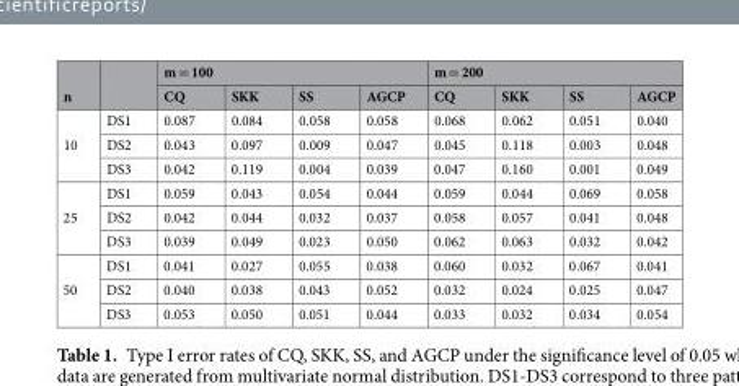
<table><thead><tr><td rowspan="2">n</td><td rowspan="2"></td><td colspan="4">m = 100</td><td colspan="4">m = 200</td></tr><tr><td>CQ</td><td>SKK</td><td>SS</td><td>AGCP</td><td>CQ</td><td>SKK</td><td>SS</td><td>AGCP</td></tr></thead><tbody><tr><td rowspan="3">10</td><td>DS1</td><td>0.087</td><td>0.084</td><td>0.058</td><td>0.058</td><td>0.068</td><td>0.062</td><td>0.051</td><td>0.040</td></tr><tr><td>DS2</td><td>0.043</td><td>0.097</td><td>0.009</td><td>0.047</td><td>0.045</td><td>0.118</td><td>0.003</td><td>0.048</td></tr><tr><td>DS3</td><td>0.042</td><td>0.119</td><td>0.004</td><td>0.039</td><td>0.047</td><td>0.160</td><td>0.001</td><td>0.049</td></tr><tr><td rowspan="3">25</td><td>DS1</td><td>0.059</td><td>0.043</td><td>0.054</td><td>0.044</td><td>0.059</td><td>0.044</td><td>0.069</td><td>0.058</td></tr><tr><td>DS2</td><td>0.042</td><td>0.044</td><td>0.032</td><td>0.037</td><td>0.058</td><td>0.057</td><td>0.041</td><td>0.048</td></tr><tr><td>DS3</td><td>0.039</td><td>0.049</td><td>0.023</td><td>0.050</td><td>0.062</td><td>0.063</td><td>0.032</td><td>0.042</td></tr><tr><td rowspan="3">50</td><td>DS1</td><td>0.041</td><td>0.027</td><td>0.055</td><td>0.038</td><td>0.060</td><td>0.032</td><td>0.067</td><td>0.041</td></tr><tr><td>DS2</td><td>0.040</td><td>0.038</td><td>0.043</td><td>0.052</td><td>0.032</td><td>0.024</td><td>0.025</td><td>0.047</td></tr><tr><td>DS3</td><td>0.053</td><td>0.050</td><td>0.051</td><td>0.044</td><td>0.033</td><td>0.032</td><td>0.034</td><td>0.054</td></tr></tbody></table>